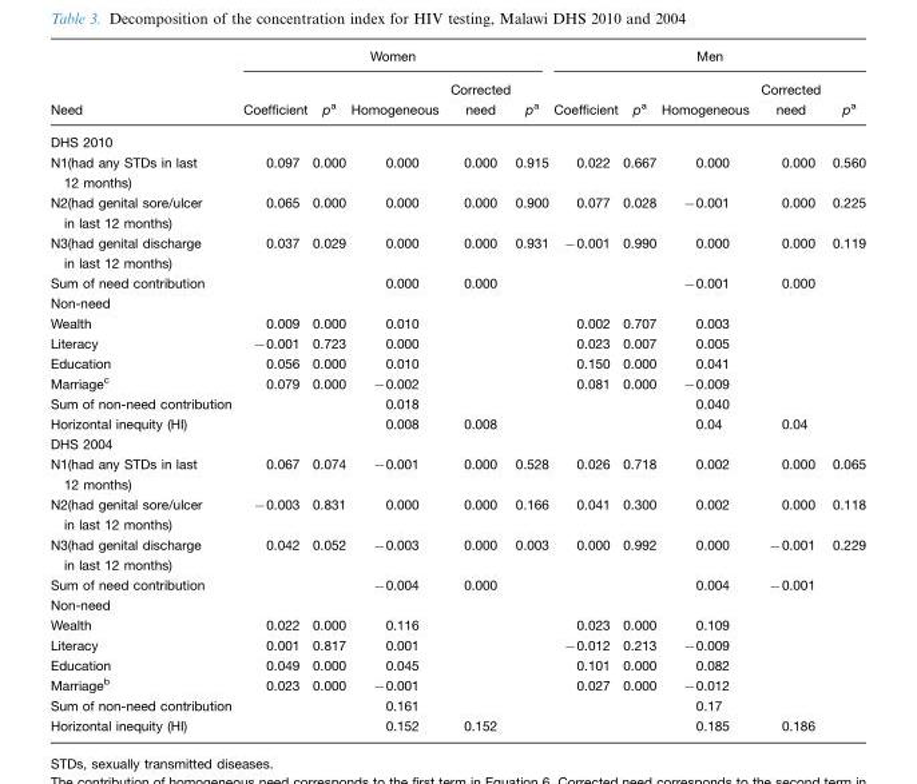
<table><thead><tr><td rowspan="2">Need</td><td colspan="5">Women</td><td colspan="5">Men</td></tr><tr><td>Coefficient</td><td>p<sup>a</sup></td><td>Homogeneous</td><td>Corrected need</td><td>p<sup>a</sup></td><td>Coefficient</td><td>p<sup>a</sup></td><td>Homogeneous</td><td>Corrected need</td><td>p<sup>a</sup></td></tr></thead><tbody><tr><td colspan="11">DHS 2010</td></tr><tr><td>N1(had any STDs in last 12 months)</td><td>0.097</td><td>0.000</td><td>0.000</td><td>0.000</td><td>0.915</td><td>0.022</td><td>0.667</td><td>0.000</td><td>0.000</td><td>0.560</td></tr><tr><td>N2(had genital sore/ulcer in last 12 months)</td><td>0.065</td><td>0.000</td><td>0.000</td><td>0.000</td><td>0.900</td><td>0.077</td><td>0.028</td><td>−0.001</td><td>0.000</td><td>0.225</td></tr><tr><td>N3(had genital discharge in last 12 months)</td><td>0.037</td><td>0.029</td><td>0.000</td><td>0.000</td><td>0.931</td><td>−0.001</td><td>0.990</td><td>0.000</td><td>0.000</td><td>0.119</td></tr><tr><td>Sum of need contribution</td><td></td><td></td><td>0.000</td><td>0.000</td><td></td><td></td><td></td><td>−0.001</td><td>0.000</td><td></td></tr><tr><td colspan="11">Non-need</td></tr><tr><td>Wealth</td><td>0.009</td><td>0.000</td><td>0.010</td><td></td><td></td><td>0.002</td><td>0.707</td><td>0.003</td><td></td><td></td></tr><tr><td>Literacy</td><td>−0.001</td><td>0.723</td><td>0.000</td><td></td><td></td><td>0.023</td><td>0.007</td><td>0.005</td><td></td><td></td></tr><tr><td>Education</td><td>0.056</td><td>0.000</td><td>0.010</td><td></td><td></td><td>0.150</td><td>0.000</td><td>0.041</td><td></td><td></td></tr><tr><td>Marriage<sup>c</sup></td><td>0.079</td><td>0.000</td><td>−0.002</td><td></td><td></td><td>0.081</td><td>0.000</td><td>−0.009</td><td></td><td></td></tr><tr><td>Sum of non-need contribution</td><td></td><td></td><td>0.018</td><td></td><td></td><td></td><td></td><td>0.040</td><td></td><td></td></tr><tr><td>Horizontal inequity (HI)</td><td></td><td></td><td>0.008</td><td>0.008</td><td></td><td></td><td></td><td>0.04</td><td>0.04</td><td></td></tr><tr><td colspan="11">DHS 2004</td></tr><tr><td>N1(had any STDs in last 12 months)</td><td>0.067</td><td>0.074</td><td>−0.001</td><td>0.000</td><td>0.528</td><td>0.026</td><td>0.718</td><td>0.002</td><td>0.000</td><td>0.065</td></tr><tr><td>N2(had genital sore/ulcer in last 12 months)</td><td>−0.003</td><td>0.831</td><td>0.000</td><td>0.000</td><td>0.166</td><td>0.041</td><td>0.300</td><td>0.002</td><td>0.000</td><td>0.118</td></tr><tr><td>N3(had genital discharge in last 12 months)</td><td>0.042</td><td>0.052</td><td>−0.003</td><td>0.000</td><td>0.003</td><td>0.000</td><td>0.992</td><td>0.000</td><td>−0.001</td><td>0.229</td></tr><tr><td>Sum of need contribution</td><td></td><td></td><td>−0.004</td><td>0.000</td><td></td><td></td><td></td><td>0.004</td><td>−0.001</td><td></td></tr><tr><td colspan="11">Non-need</td></tr><tr><td>Wealth</td><td>0.022</td><td>0.000</td><td>0.116</td><td></td><td></td><td>0.023</td><td>0.000</td><td>0.109</td><td></td><td></td></tr><tr><td>Literacy</td><td>0.001</td><td>0.817</td><td>0.001</td><td></td><td></td><td>−0.012</td><td>0.213</td><td>−0.009</td><td></td><td></td></tr><tr><td>Education</td><td>0.049</td><td>0.000</td><td>0.045</td><td></td><td></td><td>0.101</td><td>0.000</td><td>0.082</td><td></td><td></td></tr><tr><td>Marriage<sup>b</sup></td><td>0.023</td><td>0.000</td><td>−0.001</td><td></td><td></td><td>0.027</td><td>0.000</td><td>−0.012</td><td></td><td></td></tr><tr><td>Sum of non-need contribution</td><td></td><td></td><td>0.161</td><td></td><td></td><td></td><td></td><td>0.17</td><td></td><td></td></tr><tr><td>Horizontal inequity (HI)</td><td></td><td></td><td>0.152</td><td>0.152</td><td></td><td></td><td></td><td>0.185</td><td>0.186</td><td></td></tr></tbody></table>